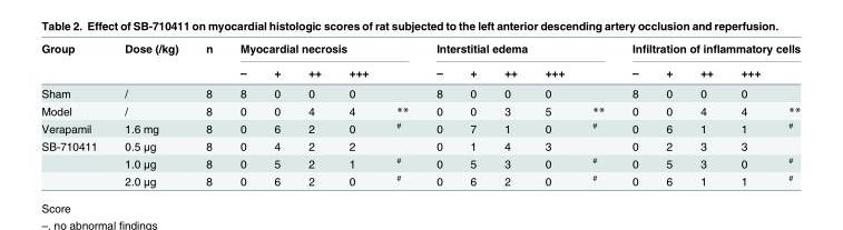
<table><thead><tr><td rowspan="2">Group</td><td rowspan="2">Dose (/kg)</td><td rowspan="2">n</td><td colspan="5">Myocardial necrosis</td><td colspan="5">Interstitial edema</td><td colspan="5">Infiltration of inflammatory cells</td></tr><tr><td>–</td><td>+</td><td>++</td><td>+++</td><td></td><td>–</td><td>+</td><td>++</td><td>+++</td><td></td><td>–</td><td>+</td><td>++</td><td>+++</td><td></td></tr></thead><tbody><tr><td>Sham</td><td>/</td><td>8</td><td>8</td><td>0</td><td>0</td><td>0</td><td></td><td>8</td><td>0</td><td>0</td><td>0</td><td></td><td>8</td><td>0</td><td>0</td><td>0</td><td></td></tr><tr><td>Model</td><td>/</td><td>8</td><td>0</td><td>0</td><td>4</td><td>4</td><td>**</td><td>0</td><td>0</td><td>3</td><td>5</td><td>**</td><td>0</td><td>0</td><td>4</td><td>4</td><td>**</td></tr><tr><td>Verapamil</td><td>1.6 mg</td><td>8</td><td>0</td><td>6</td><td>2</td><td>0</td><td><sup>#</sup></td><td>0</td><td>7</td><td>1</td><td>0</td><td><sup>#</sup></td><td>0</td><td>6</td><td>1</td><td>1</td><td><sup>#</sup></td></tr><tr><td rowspan="3">SB-710411</td><td>0.5 μg</td><td>8</td><td>0</td><td>4</td><td>2</td><td>2</td><td></td><td>0</td><td>1</td><td>4</td><td>3</td><td></td><td>0</td><td>2</td><td>3</td><td>3</td><td></td></tr><tr><td>1.0 μg</td><td>8</td><td>0</td><td>5</td><td>2</td><td>1</td><td><sup>#</sup></td><td>0</td><td>5</td><td>3</td><td>0</td><td><sup>#</sup></td><td>0</td><td>5</td><td>3</td><td>0</td><td><sup>#</sup></td></tr><tr><td>2.0 μg</td><td>8</td><td>0</td><td>6</td><td>2</td><td>0</td><td><sup>#</sup></td><td>0</td><td>6</td><td>2</td><td>0</td><td><sup>#</sup></td><td>0</td><td>6</td><td>1</td><td>1</td><td><sup>#</sup></td></tr></tbody></table>